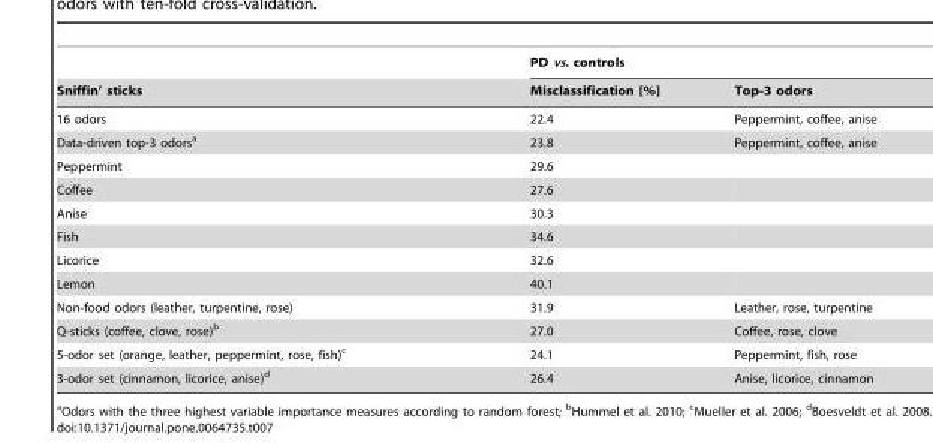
<table><thead><tr><td rowspan="2">Sniffin’ sticks</td><td colspan="2">PD vs. controls</td></tr><tr><td>Misclassification [%]</td><td>Top-3 odors</td></tr></thead><tbody><tr><td>16 odors</td><td>22.4</td><td>Peppermint, coffee, anise</td></tr><tr><td>Data-driven top-3 odors<sup>a</sup></td><td>23.8</td><td>Peppermint, coffee, anise</td></tr><tr><td>Peppermint</td><td>29.6</td><td></td></tr><tr><td>Coffee</td><td>27.6</td><td></td></tr><tr><td>Anise</td><td>30.3</td><td></td></tr><tr><td>Fish</td><td>34.6</td><td></td></tr><tr><td>Licorice</td><td>32.6</td><td></td></tr><tr><td>Lemon</td><td>40.1</td><td></td></tr><tr><td>Non-food odors (leather, turpentine, rose)</td><td>31.9</td><td>Leather, rose, turpentine</td></tr><tr><td>Q-sticks (coffee, clove, rose)<sup>b</sup></td><td>27.0</td><td>Coffee, rose, clove</td></tr><tr><td>5-odor set (orange, leather, peppermint, rose, fish)<sup>c</sup></td><td>24.1</td><td>Peppermint, fish, rose</td></tr><tr><td>3-odor set (cinnamon, licorice, anise)<sup>d</sup></td><td>26.4</td><td>Anise, licorice, cinnamon</td></tr></tbody></table>